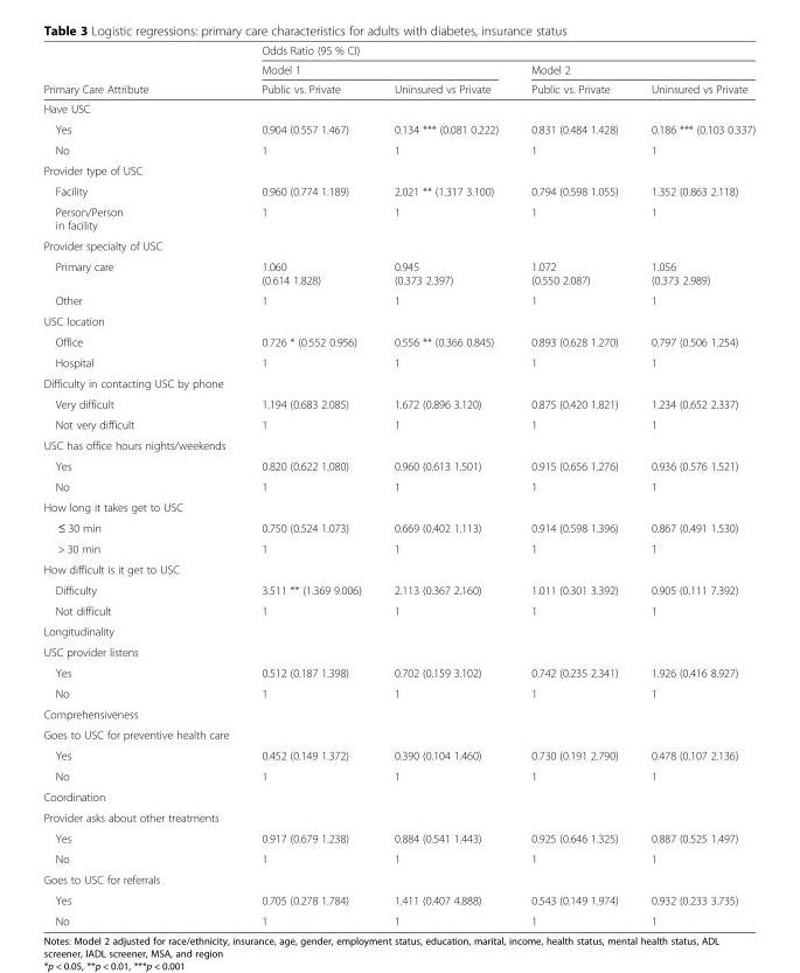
<table><thead><tr><td rowspan="3">Primary Care Attribute</td><td colspan="4">Odds Ratio (95 % CI)</td></tr><tr><td colspan="2">Model 1</td><td colspan="2">Model 2</td></tr><tr><td>Public vs. Private</td><td>Uninsured vs Private</td><td>Public vs. Private</td><td>Uninsured vs Private</td></tr></thead><tbody><tr><td colspan="5">Have USC</td></tr><tr><td>Yes</td><td>0.904 (0.557 1.467)</td><td>0.134 *** (0.081 0.222)</td><td>0.831 (0.484 1.428)</td><td>0.186 *** (0.103 0.337)</td></tr><tr><td>No</td><td>1</td><td>1</td><td>1</td><td>1</td></tr><tr><td colspan="5">Provider type of USC</td></tr><tr><td>Facility</td><td>0.960 (0.774 1.189)</td><td>2.021 ** (1.317 3.100)</td><td>0.794 (0.598 1.055)</td><td>1.352 (0.863 2.118)</td></tr><tr><td>Person/Person in facility</td><td>1</td><td>1</td><td>1</td><td>1</td></tr><tr><td colspan="5">Provider specialty of USC</td></tr><tr><td>Primary care</td><td>1.060 (0.614 1.828)</td><td>0.945 (0.373 2.397)</td><td>1.072 (0.550 2.087)</td><td>1.056 (0.373 2.989)</td></tr><tr><td>Other</td><td>1</td><td>1</td><td>1</td><td>1</td></tr><tr><td colspan="5">USC location</td></tr><tr><td>Office</td><td>0.726 * (0.552 0.956)</td><td>0.556 ** (0.366 0.845)</td><td>0.893 (0.628 1.270)</td><td>0.797 (0.506 1.254)</td></tr><tr><td>Hospital</td><td>1</td><td>1</td><td>1</td><td>1</td></tr><tr><td colspan="5">Difficulty in contacting USC by phone</td></tr><tr><td>Very difficult</td><td>1.194 (0.683 2.085)</td><td>1.672 (0.896 3.120)</td><td>0.875 (0.420 1.821)</td><td>1.234 (0.652 2.337)</td></tr><tr><td>Not very difficult</td><td>1</td><td>1</td><td>1</td><td>1</td></tr><tr><td colspan="5">USC has office hours nights/weekends</td></tr><tr><td>Yes</td><td>0.820 (0.622 1.080)</td><td>0.960 (0.613 1.501)</td><td>0.915 (0.656 1.276)</td><td>0.936 (0.576 1.521)</td></tr><tr><td>No</td><td>1</td><td>1</td><td>1</td><td>1</td></tr><tr><td colspan="5">How long it takes get to USC</td></tr><tr><td>≤ 30 min</td><td>0.750 (0.524 1.073)</td><td>0.669 (0.402 1.113)</td><td>0.914 (0.598 1.396)</td><td>0.867 (0.491 1.530)</td></tr><tr><td>&gt; 30 min</td><td>1</td><td>1</td><td>1</td><td>1</td></tr><tr><td colspan="5">How difficult is it get to USC</td></tr><tr><td>Difficulty</td><td>3.511 ** (1.369 9.006)</td><td>2.113 (0.367 2.160)</td><td>1.011 (0.301 3.392)</td><td>0.905 (0.111 7.392)</td></tr><tr><td>Not difficult</td><td>1</td><td>1</td><td>1</td><td>1</td></tr><tr><td colspan="5">Longitudinality</td></tr><tr><td colspan="5">USC provider listens</td></tr><tr><td>Yes</td><td>0.512 (0.187 1.398)</td><td>0.702 (0.159 3.102)</td><td>0.742 (0.235 2.341)</td><td>1.926 (0.416 8.927)</td></tr><tr><td>No</td><td>1</td><td>1</td><td>1</td><td>1</td></tr><tr><td colspan="5">Comprehensiveness</td></tr><tr><td colspan="5">Goes to USC for preventive health care</td></tr><tr><td>Yes</td><td>0.452 (0.149 1.372)</td><td>0.390 (0.104 1.460)</td><td>0.730 (0.191 2.790)</td><td>0.478 (0.107 2.136)</td></tr><tr><td>No</td><td>1</td><td>1</td><td>1</td><td>1</td></tr><tr><td colspan="5">Coordination</td></tr><tr><td colspan="5">Provider asks about other treatments</td></tr><tr><td>Yes</td><td>0.917 (0.679 1.238)</td><td>0.884 (0.541 1.443)</td><td>0.925 (0.646 1.325)</td><td>0.887 (0.525 1.497)</td></tr><tr><td>No</td><td>1</td><td>1</td><td>1</td><td>1</td></tr><tr><td colspan="5">Goes to USC for referrals</td></tr><tr><td>Yes</td><td>0.705 (0.278 1.784)</td><td>1.411 (0.407 4.888)</td><td>0.543 (0.149 1.974)</td><td>0.932 (0.233 3.735)</td></tr><tr><td>No</td><td>1</td><td>1</td><td>1</td><td>1</td></tr></tbody></table>